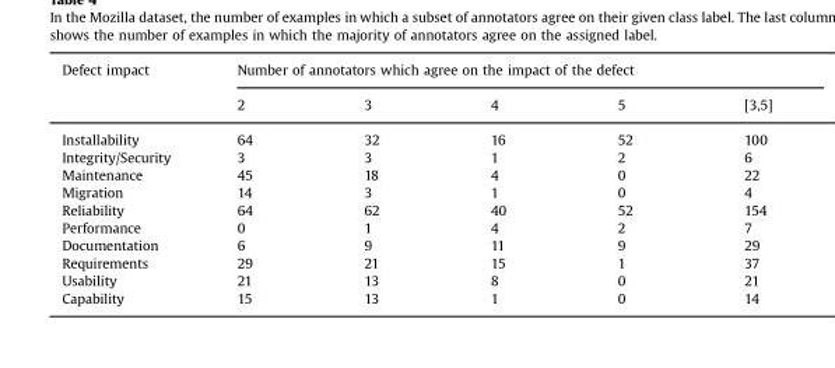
<table><thead><tr><td rowspan="2">Defect impact</td><td colspan="5">Number of annotators which agree on the impact of the defect</td></tr><tr><td>2</td><td>3</td><td>4</td><td>5</td><td>[3,5]</td></tr></thead><tbody><tr><td>Installability</td><td>64</td><td>32</td><td>16</td><td>52</td><td>100</td></tr><tr><td>Integrity/Security</td><td>3</td><td>3</td><td>1</td><td>2</td><td>6</td></tr><tr><td>Maintenance</td><td>45</td><td>18</td><td>4</td><td>0</td><td>22</td></tr><tr><td>Migration</td><td>14</td><td>3</td><td>1</td><td>0</td><td>4</td></tr><tr><td>Reliability</td><td>64</td><td>62</td><td>40</td><td>52</td><td>154</td></tr><tr><td>Performance</td><td>0</td><td>1</td><td>4</td><td>2</td><td>7</td></tr><tr><td>Documentation</td><td>6</td><td>9</td><td>11</td><td>9</td><td>29</td></tr><tr><td>Requirements</td><td>29</td><td>21</td><td>15</td><td>1</td><td>37</td></tr><tr><td>Usability</td><td>21</td><td>13</td><td>8</td><td>0</td><td>21</td></tr><tr><td>Capability</td><td>15</td><td>13</td><td>1</td><td>0</td><td>14</td></tr></tbody></table>